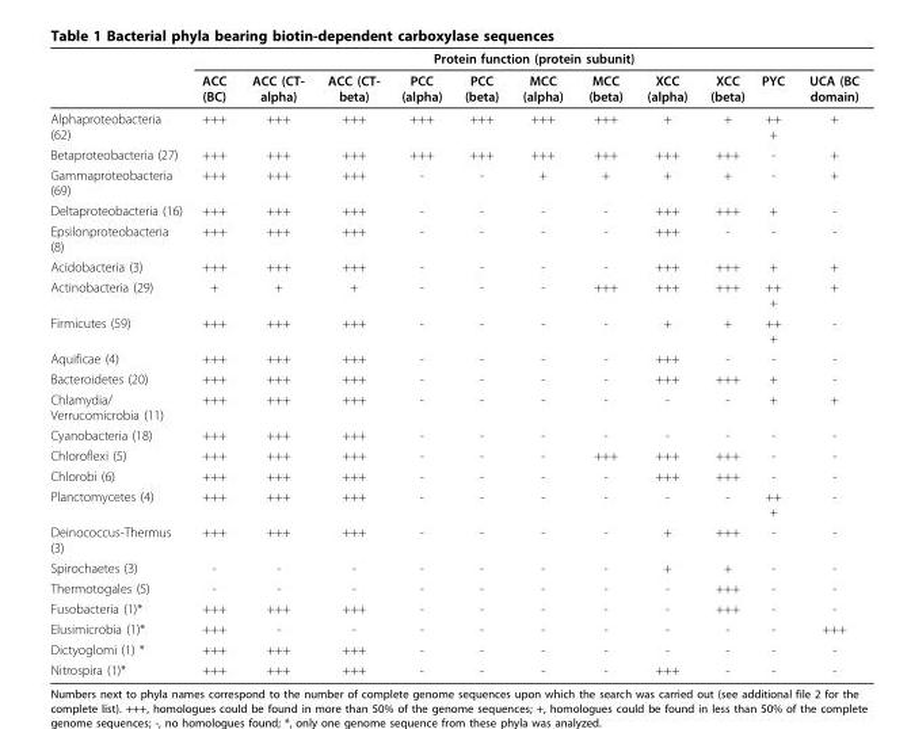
<table><thead><tr><td rowspan="2"></td><td colspan="11">Protein function (protein subunit)</td></tr><tr><td>ACC (BC)</td><td>ACC (CT- alpha)</td><td>ACC (CT- beta)</td><td>PCC (alpha)</td><td>PCC (beta)</td><td>MCC (alpha)</td><td>MCC (beta)</td><td>XCC (alpha)</td><td>XCC (beta)</td><td>PYC</td><td>UCA (BC domain)</td></tr></thead><tbody><tr><td>Alphaproteobacteria (62)</td><td>+++</td><td>+++</td><td>+++</td><td>+++</td><td>+++</td><td>+++</td><td>+++</td><td>+</td><td>+</td><td>++ +</td><td>+</td></tr><tr><td>Betaproteobacteria (27)</td><td>+++</td><td>+++</td><td>+++</td><td>+++</td><td>+++</td><td>+++</td><td>+++</td><td>+++</td><td>+++</td><td>-</td><td>+</td></tr><tr><td>Gammaproteobacteria (69)</td><td>+++</td><td>+++</td><td>+++</td><td>-</td><td>-</td><td>+</td><td>+</td><td>+</td><td>+</td><td>-</td><td>+</td></tr><tr><td>Deltaproteobacteria (16)</td><td>+++</td><td>+++</td><td>+++</td><td>-</td><td>-</td><td>-</td><td>-</td><td>+++</td><td>+++</td><td>+</td><td>-</td></tr><tr><td>Epsilonproteobacteria (8)</td><td>+++</td><td>+++</td><td>+++</td><td>-</td><td>-</td><td>-</td><td>-</td><td>+++</td><td>-</td><td>-</td><td>-</td></tr><tr><td>Acidobacteria (3)</td><td>+++</td><td>+++</td><td>+++</td><td>-</td><td>-</td><td>-</td><td>-</td><td>+++</td><td>+++</td><td>+</td><td>+</td></tr><tr><td>Actinobacteria (29)</td><td>+</td><td>+</td><td>+</td><td>-</td><td>-</td><td>-</td><td>+++</td><td>+++</td><td>+++</td><td>++ +</td><td>+</td></tr><tr><td>Firmicutes (59)</td><td>+++</td><td>+++</td><td>+++</td><td>-</td><td>-</td><td>-</td><td>-</td><td>+</td><td>+</td><td>++ +</td><td>-</td></tr><tr><td>Aquificae (4)</td><td>+++</td><td>+++</td><td>+++</td><td>-</td><td>-</td><td>-</td><td>-</td><td>+++</td><td>-</td><td>-</td><td>-</td></tr><tr><td>Bacteroidetes (20)</td><td>+++</td><td>+++</td><td>+++</td><td>-</td><td>-</td><td>-</td><td>-</td><td>+++</td><td>+++</td><td>+</td><td>-</td></tr><tr><td>Chlamydia/ Verrucomicrobia (11)</td><td>+++</td><td>+++</td><td>+++</td><td>-</td><td>-</td><td>-</td><td>-</td><td>-</td><td>-</td><td>+</td><td>+</td></tr><tr><td>Cyanobacteria (18)</td><td>+++</td><td>+++</td><td>+++</td><td>-</td><td>-</td><td>-</td><td>-</td><td>-</td><td>-</td><td>-</td><td>-</td></tr><tr><td>Chloroflexi (5)</td><td>+++</td><td>+++</td><td>+++</td><td>-</td><td>-</td><td>-</td><td>+++</td><td>+++</td><td>+++</td><td>-</td><td>-</td></tr><tr><td>Chlorobi (6)</td><td>+++</td><td>+++</td><td>+++</td><td>-</td><td>-</td><td>-</td><td>-</td><td>+++</td><td>+++</td><td>-</td><td>-</td></tr><tr><td>Planctomycetes (4)</td><td>+++</td><td>+++</td><td>+++</td><td>-</td><td>-</td><td>-</td><td>-</td><td>-</td><td>-</td><td>++ +</td><td>-</td></tr><tr><td>Deinococcus-Thermus (3)</td><td>+++</td><td>+++</td><td>+++</td><td>-</td><td>-</td><td>-</td><td>-</td><td>+</td><td>+++</td><td>-</td><td>-</td></tr><tr><td>Spirochaetes (3)</td><td>-</td><td>-</td><td>-</td><td>-</td><td>-</td><td>-</td><td>-</td><td>+</td><td>+</td><td>-</td><td>-</td></tr><tr><td>Thermotogales (5)</td><td>-</td><td>-</td><td>-</td><td>-</td><td>-</td><td>-</td><td>-</td><td>-</td><td>+++</td><td>-</td><td>-</td></tr><tr><td>Fusobacteria (1)*</td><td>+++</td><td>+++</td><td>+++</td><td>-</td><td>-</td><td>-</td><td>-</td><td>-</td><td>+++</td><td>-</td><td>-</td></tr><tr><td>Elusimicrobia (1)*</td><td>+++</td><td>-</td><td>-</td><td>-</td><td>-</td><td>-</td><td>-</td><td>-</td><td>-</td><td>-</td><td>+++</td></tr><tr><td>Dictyoglomi (1) *</td><td>+++</td><td>+++</td><td>+++</td><td>-</td><td>-</td><td>-</td><td>-</td><td>-</td><td>-</td><td>-</td><td>-</td></tr><tr><td>Nitrospira (1)*</td><td>+++</td><td>+++</td><td>+++</td><td>-</td><td>-</td><td>-</td><td>-</td><td>+++</td><td>-</td><td>-</td><td>-</td></tr></tbody></table>